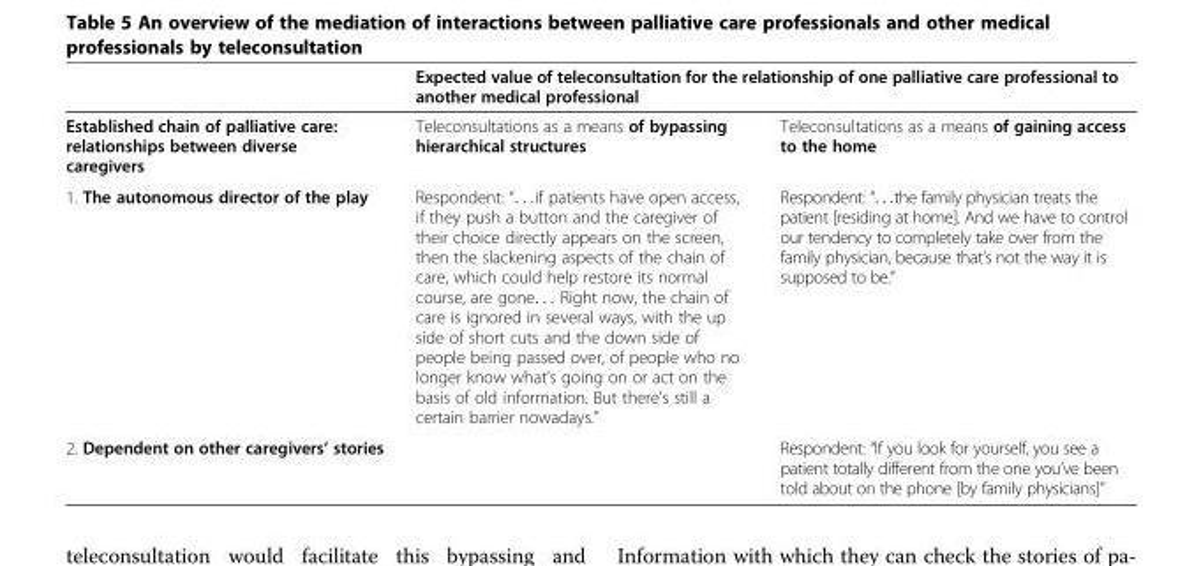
<table><thead><tr><td rowspan="2">Established chain of palliative care: relationships between diverse caregivers</td><td colspan="2">Expected value of teleconsultation for the relationship of one palliative care professional to another medical professional</td></tr><tr><td>Teleconsultations as a means of bypassing hierarchical structures</td><td>Teleconsultations as a means of gaining access to the home</td></tr></thead><tbody><tr><td>1. The autonomous director of the play</td><td>Respondent: “. . .if patients have open access, if they push a button and the caregiver of their choice directly appears on the screen, then the slackening aspects of the chain of care, which could help restore its normal course, are gone. . . Right now, the chain of care is ignored in several ways, with the up side of short cuts and the down side of people being passed over, of people who no longer know what’s going on or act on the basis of old information. But there’s still a certain barrier nowadays.”</td><td>Respondent: “...the family physician treats the patient [residing at home]. And we have to control our tendency to completely take over from the family physician, because that’s not the way it is supposed to be.”</td></tr><tr><td>2. Dependent on other caregivers’ stories</td><td></td><td>Respondent: “If you look for yourself, you see a patient totally different from the one you’ve been told about on the phone [by family physicians]”</td></tr></tbody></table>